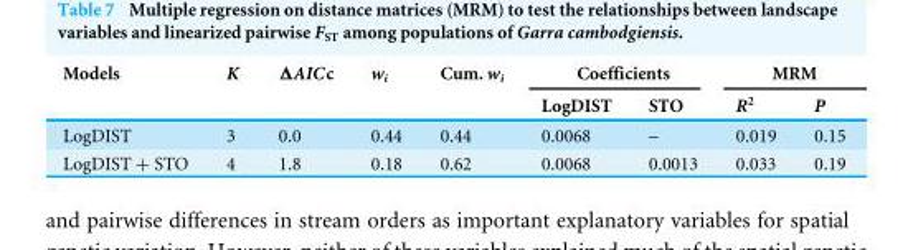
<table><thead><tr><td rowspan="2">Models</td><td rowspan="2">K</td><td rowspan="2">ΔAICc</td><td rowspan="2">w<sub>i</sub></td><td rowspan="2">Cum. w<sub>i</sub></td><td colspan="2">Coefficients</td><td colspan="2">MRM</td></tr><tr><td>LogDIST</td><td>STO</td><td>R<sup>2</sup></td><td>P</td></tr></thead><tbody><tr><td>LogDIST</td><td>3</td><td>0.0</td><td>0.44</td><td>0.44</td><td>0.0068</td><td>–</td><td>0.019</td><td>0.15</td></tr><tr><td>LogDIST + STO</td><td>4</td><td>1.8</td><td>0.18</td><td>0.62</td><td>0.0068</td><td>0.0013</td><td>0.033</td><td>0.19</td></tr></tbody></table>